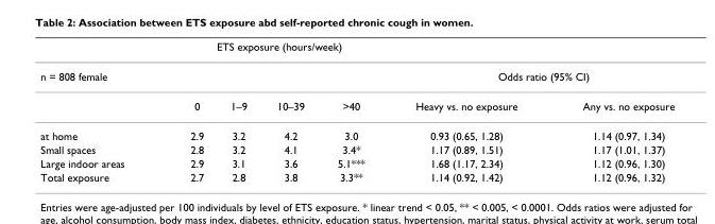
<table><thead><tr><td rowspan="2">n = 808 female</td><td colspan="4">ETS exposure (hours/week)</td><td></td><td></td></tr><tr><td></td><td></td><td></td><td></td><td colspan="2">Odds ratio (95% CI)</td></tr></thead><tbody><tr><td></td><td>0</td><td>1–9</td><td>10–39</td><td>&gt;40</td><td>Heavy vs. no exposure</td><td>Any vs. no exposure</td></tr><tr><td>at home</td><td>2.9</td><td>3.2</td><td>4.2</td><td>3.0</td><td>0.93 (0.65, 1.28)</td><td>1.14 (0.97, 1.34)</td></tr><tr><td>Small spaces</td><td>2.8</td><td>3.2</td><td>4.1</td><td>3.4*</td><td>1.17 (0.89, 1.51)</td><td>1.17 (1.01, 1.37)</td></tr><tr><td>Large indoor areas</td><td>2.9</td><td>3.1</td><td>3.6</td><td>5.1***</td><td>1.68 (1.17, 2.34)</td><td>1.12 (0.96, 1.30)</td></tr><tr><td>Total exposure</td><td>2.7</td><td>2.8</td><td>3.8</td><td>3.3**</td><td>1.14 (0.92, 1.42)</td><td>1.12 (0.96, 1.32)</td></tr></tbody></table>